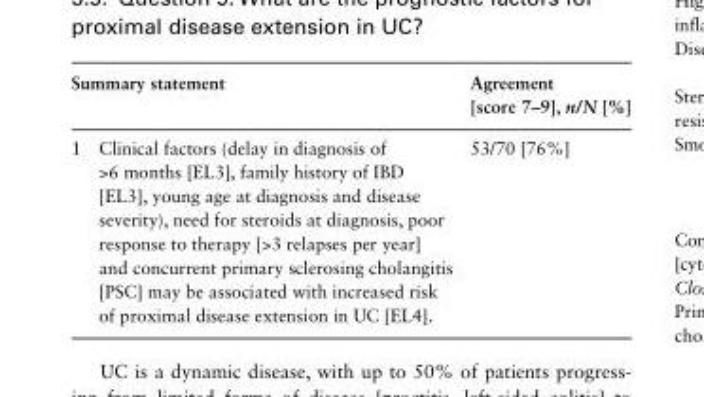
<table><thead><tr><td colspan="2">Summary statement</td><td rowspan="2">Agreement [score 7–9], n/N [%] 53/70 [76%]</td></tr><tr><td>1</td><td>Clinical factors (delay in diagnosis of &gt;6 months [EL3], family history of IBD [EL3], young age at diagnosis and disease severity), need for steroids at diagnosis, poor response to therapy [&gt;3 relapses per year] and concurrent primary sclerosing cholangitis [PSC] may be associated with increased risk of proximal disease extension in UC [EL4].</td></tr></thead><tbody></tbody></table>